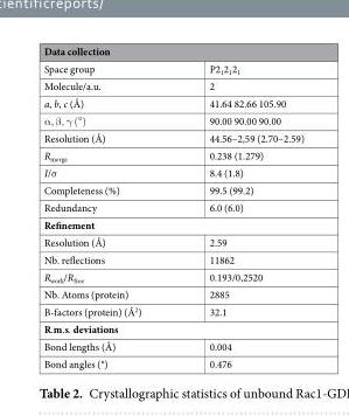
<table><thead><tr><td colspan="2">Data collection</td></tr><tr><td>Space group</td><td>P2<sub>1</sub>2<sub>1</sub>2<sub>1</sub></td></tr></thead><tbody><tr><td>Molecule/a.u.</td><td>2</td></tr><tr><td>a, b, c (Å)</td><td>41.64 82.66 105.90</td></tr><tr><td>α, β, γ (°)</td><td>90.00 90.00 90.00</td></tr><tr><td>Resolution (Å)</td><td>44.56–2,59 (2.70–2.59)</td></tr><tr><td>R<sub>merge</sub></td><td>0.238 (1.279)</td></tr><tr><td>I/σ</td><td>8.4 (1.8)</td></tr><tr><td>Completeness (%)</td><td>99.5 (99.2)</td></tr><tr><td>Redundancy</td><td>6.0 (6.0)</td></tr><tr><td colspan="2">Refinement</td></tr><tr><td>Resolution (Å)</td><td>2.59</td></tr><tr><td>Nb. reflections</td><td>11862</td></tr><tr><td>R<sub>work</sub>/R<sub>free</sub></td><td>0.193/0,2520</td></tr><tr><td>Nb. Atoms (protein)</td><td>2885</td></tr><tr><td>B-factors (protein) (Å<sup>2</sup>)</td><td>32.1</td></tr><tr><td colspan="2">R.m.s. deviations</td></tr><tr><td>Bond lengths (Å)</td><td>0.004</td></tr><tr><td>Bond angles (°)</td><td>0.476</td></tr></tbody></table>